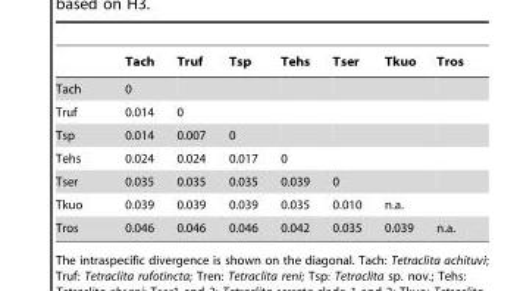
<table><thead><tr><td></td><td>Tach</td><td>Truf</td><td>Tsp</td><td>Tehs</td><td>Tser</td><td>Tkuo</td><td>Tros</td></tr></thead><tbody><tr><td>Tach</td><td>0</td><td></td><td></td><td></td><td></td><td></td><td></td></tr><tr><td>Truf</td><td>0.014</td><td>0</td><td></td><td></td><td></td><td></td><td></td></tr><tr><td>Tsp</td><td>0.014</td><td>0.007</td><td>0</td><td></td><td></td><td></td><td></td></tr><tr><td>Tehs</td><td>0.024</td><td>0.024</td><td>0.017</td><td>0</td><td></td><td></td><td></td></tr><tr><td>Tser</td><td>0.035</td><td>0.035</td><td>0.035</td><td>0.039</td><td>0</td><td></td><td></td></tr><tr><td>Tkuo</td><td>0.039</td><td>0.039</td><td>0.039</td><td>0.035</td><td>0.010</td><td>n.a.</td><td></td></tr><tr><td>Tros</td><td>0.046</td><td>0.046</td><td>0.046</td><td>0.042</td><td>0.035</td><td>0.039</td><td>n.a.</td></tr></tbody></table>